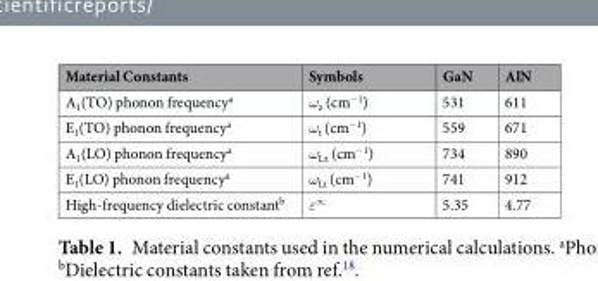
<table><thead><tr><td>Material Constants</td><td>Symbols</td><td>GaN</td><td>AlN</td></tr></thead><tbody><tr><td>A<sub>1</sub>(TO) phonon frequency<sup>a</sup></td><td>ω<sub>z</sub> (cm<sup>−1</sup>)</td><td>531</td><td>611</td></tr><tr><td>E<sub>1</sub>(TO) phonon frequency<sup>a</sup></td><td>ω<sub>t</sub> (cm<sup>−1</sup>)</td><td>559</td><td>671</td></tr><tr><td>A<sub>1</sub>(LO) phonon frequency<sup>a</sup></td><td>ω<sub>Lz</sub> (cm<sup>−1</sup>)</td><td>734</td><td>890</td></tr><tr><td>E<sub>1</sub>(LO) phonon frequency<sup>a</sup></td><td>ω<sub>Lt</sub> (cm<sup>−1</sup>)</td><td>741</td><td>912</td></tr><tr><td>High-frequency dielectric constant<sup>b</sup></td><td>ε<sup>∞</sup></td><td>5.35</td><td>4.77</td></tr></tbody></table>